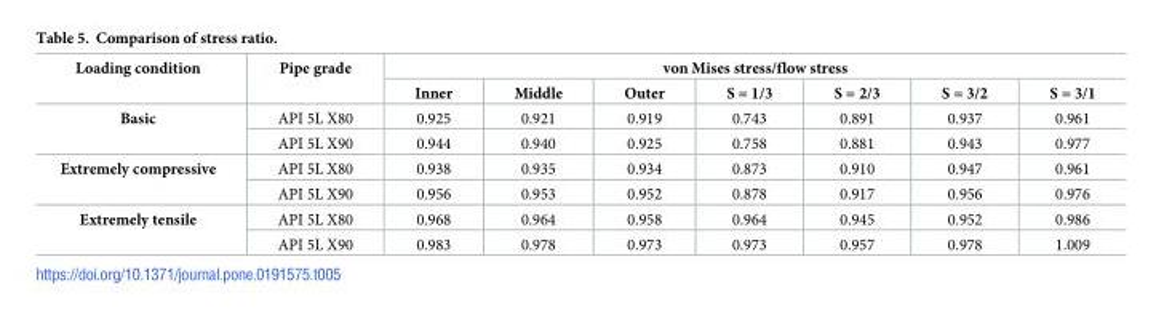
<table><thead><tr><td rowspan="2">Loading condition</td><td rowspan="2">Pipe grade</td><td colspan="7">von Mises stress/flow stress</td></tr><tr><td>Inner</td><td>Middle</td><td>Outer</td><td>S = 1/3</td><td>S = 2/3</td><td>S = 3/2</td><td>S = 3/1</td></tr></thead><tbody><tr><td rowspan="2">Basic</td><td>API 5L X80</td><td>0.925</td><td>0.921</td><td>0.919</td><td>0.743</td><td>0.891</td><td>0.937</td><td>0.961</td></tr><tr><td>API 5L X90</td><td>0.944</td><td>0.940</td><td>0.925</td><td>0.758</td><td>0.881</td><td>0.943</td><td>0.977</td></tr><tr><td rowspan="2">Extremely compressive</td><td>API 5L X80</td><td>0.938</td><td>0.935</td><td>0.934</td><td>0.873</td><td>0.910</td><td>0.947</td><td>0.961</td></tr><tr><td>API 5L X90</td><td>0.956</td><td>0.953</td><td>0.952</td><td>0.878</td><td>0.917</td><td>0.956</td><td>0.976</td></tr><tr><td rowspan="2">Extremely tensile</td><td>API 5L X80</td><td>0.968</td><td>0.964</td><td>0.958</td><td>0.964</td><td>0.945</td><td>0.952</td><td>0.986</td></tr><tr><td>API 5L X90</td><td>0.983</td><td>0.978</td><td>0.973</td><td>0.973</td><td>0.957</td><td>0.978</td><td>1.009</td></tr></tbody></table>